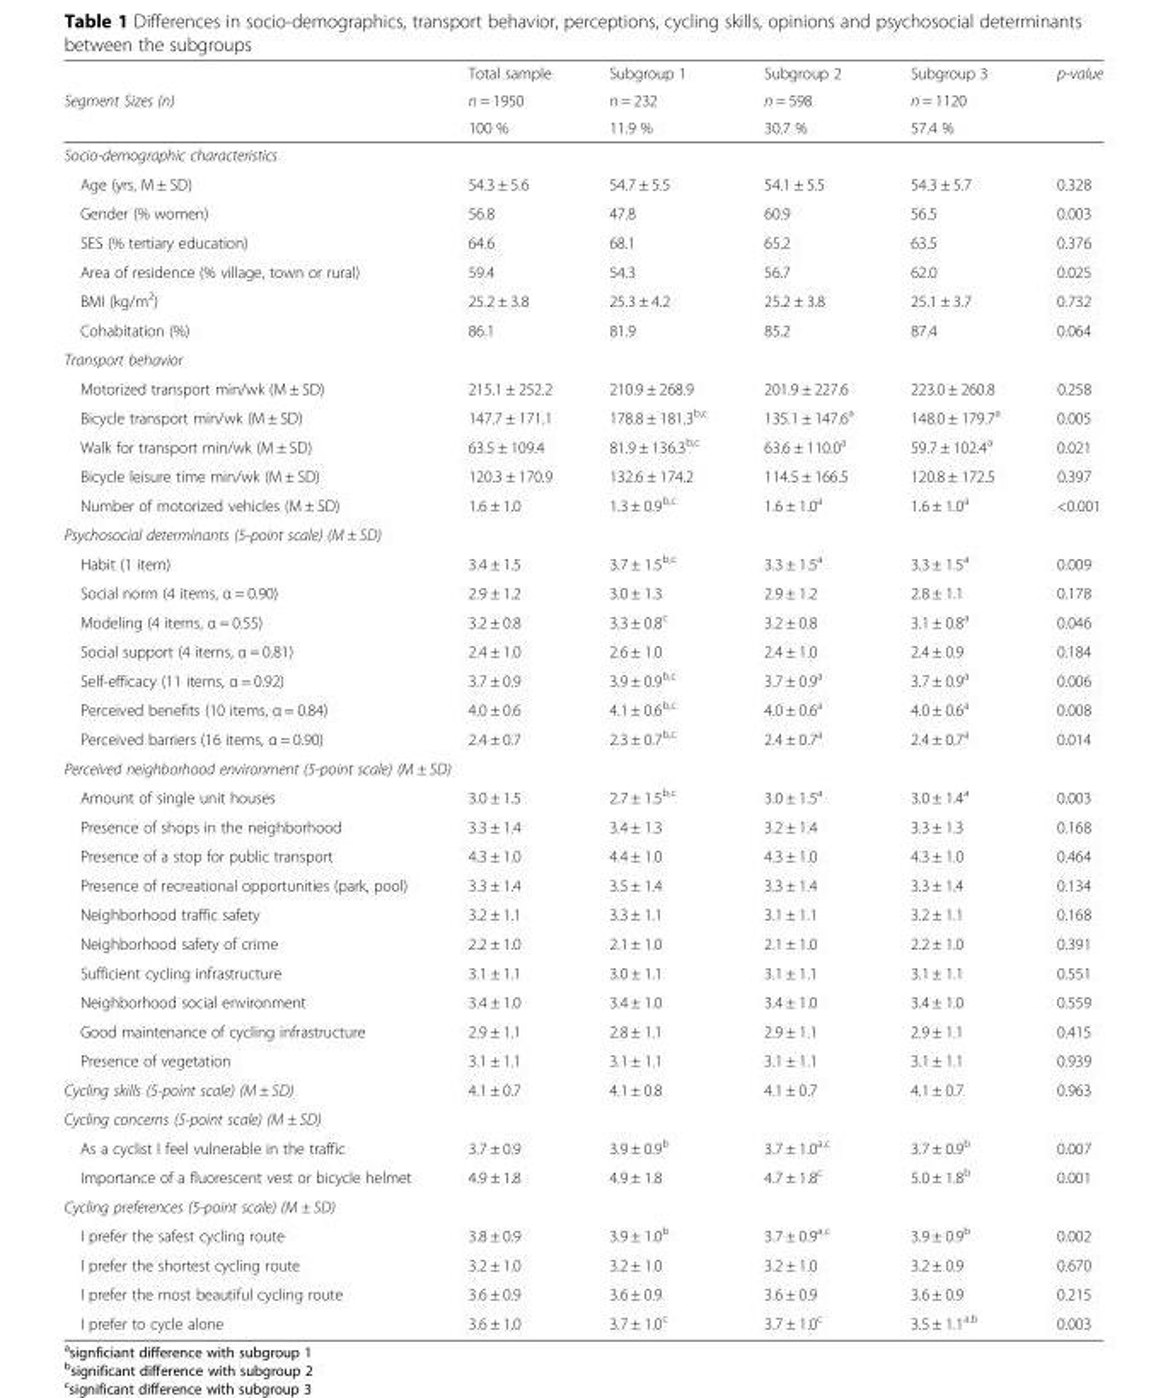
<table><thead><tr><td rowspan="3">Segment Sizes (n)</td><td rowspan="3">Total sample n = 1950 100 %</td><td rowspan="3">Subgroup 1 n = 232 11.9 %</td><td rowspan="3">Subgroup 2 n = 598 30.7 %</td><td rowspan="3">Subgroup 3 n = 1120 57.4 %</td><td rowspan="3">p-value</td></tr><tr></tr><tr></tr></thead><tbody><tr><td colspan="6">Socio-demographic characteristics</td></tr><tr><td>Age (yrs, M ± SD)</td><td>54.3 ± 5.6</td><td>54.7 ± 5.5</td><td>54.1 ± 5.5</td><td>54.3 ± 5.7</td><td>0.328</td></tr><tr><td>Gender (% women)</td><td>56.8</td><td>47.8</td><td>60.9</td><td>56.5</td><td>0.003</td></tr><tr><td>SES (% tertiary education)</td><td>64.6</td><td>68.1</td><td>65.2</td><td>63.5</td><td>0.376</td></tr><tr><td>Area of residence (% village, town or rural)</td><td>59.4</td><td>54.3</td><td>56.7</td><td>62.0</td><td>0.025</td></tr><tr><td>BMI (kg/m<sup>2</sup>)</td><td>25.2 ± 3.8</td><td>25.3 ± 4.2</td><td>25.2 ± 3.8</td><td>25.1 ± 3.7</td><td>0.732</td></tr><tr><td>Cohabitation (%)</td><td>86.1</td><td>81.9</td><td>85.2</td><td>87.4</td><td>0.064</td></tr><tr><td colspan="6">Transport behavior</td></tr><tr><td>Motorized transport min/wk (M ± SD)</td><td>215.1 ± 252.2</td><td>210.9 ± 268.9</td><td>201.9 ± 227.6</td><td>223.0 ± 260.8</td><td>0.258</td></tr><tr><td>Bicycle transport min/wk (M ± SD)</td><td>147.7 ± 171.1</td><td>178.8 ± 181.3<sup>b,c</sup></td><td>135.1 ± 147.6<sup>a</sup></td><td>148.0 ± 179.7<sup>a</sup></td><td>0.005</td></tr><tr><td>Walk for transport min/wk (M ± SD)</td><td>63.5 ± 109.4</td><td>81.9 ± 136.3<sup>b,c</sup></td><td>63.6 ± 110.0<sup>a</sup></td><td>59.7 ± 102.4<sup>a</sup></td><td>0.021</td></tr><tr><td>Bicycle leisure time min/wk (M ± SD)</td><td>120.3 ± 170.9</td><td>132.6 ± 174.2</td><td>114.5 ± 166.5</td><td>120.8 ± 172.5</td><td>0.397</td></tr><tr><td>Number of motorized vehicles (M ± SD)</td><td>1.6 ± 1.0</td><td>1.3 ± 0.9<sup>b,c</sup></td><td>1.6 ± 1.0<sup>a</sup></td><td>1.6 ± 1.0<sup>a</sup></td><td>&lt;0.001</td></tr><tr><td colspan="6">Psychosocial determinants (5-point scale) (M ± SD)</td></tr><tr><td>Habit (1 item)</td><td>3.4 ± 1.5</td><td>3.7 ± 1.5<sup>b,c</sup></td><td>3.3 ± 1.5<sup>a</sup></td><td>3.3 ± 1.5<sup>a</sup></td><td>0.009</td></tr><tr><td>Social norm (4 items, α = 0.90)</td><td>2.9 ± 1.2</td><td>3.0 ± 1.3</td><td>2.9 ± 1.2</td><td>2.8 ± 1.1</td><td>0.178</td></tr><tr><td>Modeling (4 items, α = 0.55)</td><td>3.2 ± 0.8</td><td>3.3 ± 0.8<sup>c</sup></td><td>3.2 ± 0.8</td><td>3.1 ± 0.8<sup>a</sup></td><td>0.046</td></tr><tr><td>Social support (4 items, α = 0.81)</td><td>2.4 ± 1.0</td><td>2.6 ± 1.0</td><td>2.4 ± 1.0</td><td>2.4 ± 0.9</td><td>0.184</td></tr><tr><td>Self-efficacy (11 items, α = 0.92)</td><td>3.7 ± 0.9</td><td>3.9 ± 0.9<sup>b,c</sup></td><td>3.7 ± 0.9<sup>a</sup></td><td>3.7 ± 0.9<sup>a</sup></td><td>0.006</td></tr><tr><td>Perceived benefits (10 items, α = 0.84)</td><td>4.0 ± 0.6</td><td>4.1 ± 0.6<sup>b,c</sup></td><td>4.0 ± 0.6<sup>a</sup></td><td>4.0 ± 0.6<sup>a</sup></td><td>0.008</td></tr><tr><td>Perceived barriers (16 items, α = 0.90)</td><td>2.4 ± 0.7</td><td>2.3 ± 0.7<sup>b,c</sup></td><td>2.4 ± 0.7<sup>a</sup></td><td>2.4 ± 0.7<sup>a</sup></td><td>0.014</td></tr><tr><td colspan="6">Perceived neighborhood environment (5-point scale) (M ± SD)</td></tr><tr><td>Amount of single unit houses</td><td>3.0 ± 1.5</td><td>2.7 ± 1.5<sup>b,c</sup></td><td>3.0 ± 1.5<sup>a</sup></td><td>3.0 ± 1.4<sup>a</sup></td><td>0.003</td></tr><tr><td>Presence of shops in the neighborhood</td><td>3.3 ± 1.4</td><td>3.4 ± 1.3</td><td>3.2 ± 1.4</td><td>3.3 ± 1.3</td><td>0.168</td></tr><tr><td>Presence of a stop for public transport</td><td>4.3 ± 1.0</td><td>4.4 ± 1.0</td><td>4.3 ± 1.0</td><td>4.3 ± 1.0</td><td>0.464</td></tr><tr><td>Presence of recreational opportunities (park, pool)</td><td>3.3 ± 1.4</td><td>3.5 ± 1.4</td><td>3.3 ± 1.4</td><td>3.3 ± 1.4</td><td>0.134</td></tr><tr><td>Neighborhood traffic safety</td><td>3.2 ± 1.1</td><td>3.3 ± 1.1</td><td>3.1 ± 1.1</td><td>3.2 ± 1.1</td><td>0.168</td></tr><tr><td>Neighborhood safety of crime</td><td>2.2 ± 1.0</td><td>2.1 ± 1.0</td><td>2.1 ± 1.0</td><td>2.2 ± 1.0</td><td>0.391</td></tr><tr><td>Sufficient cycling infrastructure</td><td>3.1 ± 1.1</td><td>3.0 ± 1.1</td><td>3.1 ± 1.1</td><td>3.1 ± 1.1</td><td>0.551</td></tr><tr><td>Neighborhood social environment</td><td>3.4 ± 1.0</td><td>3.4 ± 1.0</td><td>3.4 ± 1.0</td><td>3.4 ± 1.0</td><td>0.559</td></tr><tr><td>Good maintenance of cycling infrastructure</td><td>2.9 ± 1.1</td><td>2.8 ± 1.1</td><td>2.9 ± 1.1</td><td>2.9 ± 1.1</td><td>0.415</td></tr><tr><td>Presence of vegetation</td><td>3.1 ± 1.1</td><td>3.1 ± 1.1</td><td>3.1 ± 1.1</td><td>3.1 ± 1.1</td><td>0.939</td></tr><tr><td>Cycling skills (5-point scale) (M ± SD)</td><td>4.1 ± 0.7</td><td>4.1 ± 0.8</td><td>4.1 ± 0.7</td><td>4.1 ± 0.7</td><td>0.963</td></tr><tr><td colspan="6">Cycling concerns (5-point scale) (M ± SD)</td></tr><tr><td>As a cyclist I feel vulnerable in the traffic</td><td>3.7 ± 0.9</td><td>3.9 ± 0.9<sup>b</sup></td><td>3.7 ± 1.0<sup>a,c</sup></td><td>3.7 ± 0.9<sup>b</sup></td><td>0.007</td></tr><tr><td>Importance of a fluorescent vest or bicycle helmet</td><td>4.9 ± 1.8</td><td>4.9 ± 1.8</td><td>4.7 ± 1.8<sup>c</sup></td><td>5.0 ± 1.8<sup>b</sup></td><td>0.001</td></tr><tr><td colspan="6">Cycling preferences (5-point scale) (M ± SD)</td></tr><tr><td>I prefer the safest cycling route</td><td>3.8 ± 0.9</td><td>3.9 ± 1.0<sup>b</sup></td><td>3.7 ± 0.9<sup>a,c</sup></td><td>3.9 ± 0.9<sup>b</sup></td><td>0.002</td></tr><tr><td>I prefer the shortest cycling route</td><td>3.2 ± 1.0</td><td>3.2 ± 1.0</td><td>3.2 ± 1.0</td><td>3.2 ± 0.9</td><td>0.670</td></tr><tr><td>I prefer the most beautiful cycling route</td><td>3.6 ± 0.9</td><td>3.6 ± 0.9</td><td>3.6 ± 0.9</td><td>3.6 ± 0.9</td><td>0.215</td></tr><tr><td>I prefer to cycle alone</td><td>3.6 ± 1.0</td><td>3.7 ± 1.0<sup>c</sup></td><td>3.7 ± 1.0<sup>c</sup></td><td>3.5 ± 1.1<sup>a,b</sup></td><td>0.003</td></tr></tbody></table>